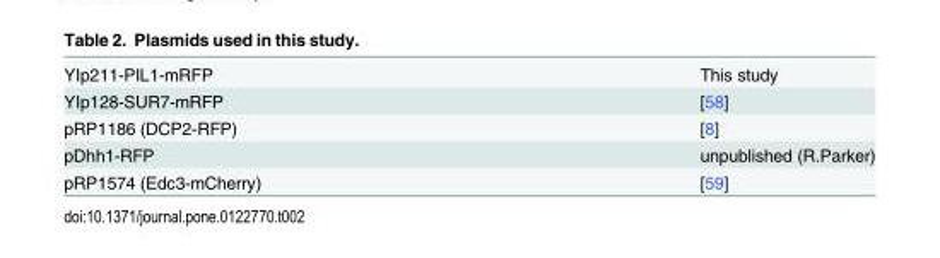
<table><tbody><tr><td>YIp211-PIL1-mRFP</td><td>This study</td></tr><tr><td>YIp128-SUR7-mRFP</td><td>[58]</td></tr><tr><td>pRP1186 (DCP2-RFP)</td><td>[8]</td></tr><tr><td>pDhh1-RFP</td><td>unpublished (R.Parker)</td></tr><tr><td>pRP1574 (Edc3-mCherry)</td><td>[59]</td></tr></tbody></table>